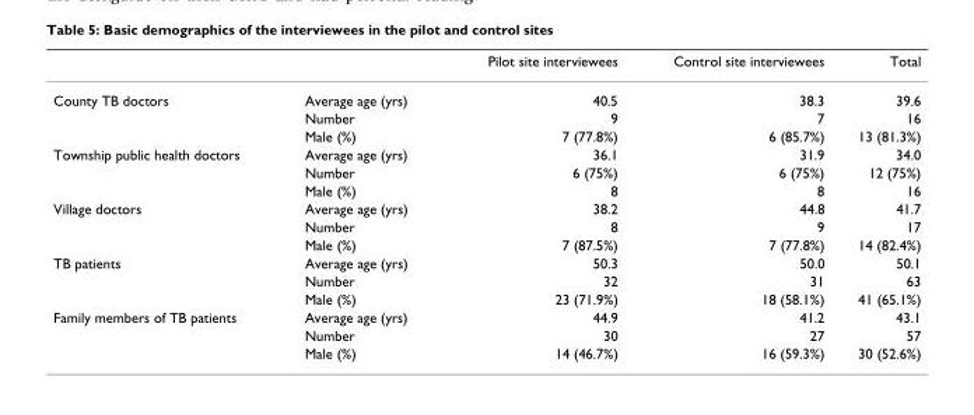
<table><thead><tr><td></td><td></td><td>Pilot site interviewees</td><td>Control site interviewees</td><td>Total</td></tr></thead><tbody><tr><td rowspan="3">County TB doctors</td><td>Average age (yrs)</td><td>40.5</td><td>38.3</td><td>39.6</td></tr><tr><td>Number</td><td>9</td><td>7</td><td>16</td></tr><tr><td>Male (%)</td><td>7 (77.8%)</td><td>6 (85.7%)</td><td>13 (81.3%)</td></tr><tr><td rowspan="3">Township public health doctors</td><td>Average age (yrs)</td><td>36.1</td><td>31.9</td><td>34.0</td></tr><tr><td>Number</td><td>6 (75%)</td><td>6 (75%)</td><td>12 (75%)</td></tr><tr><td>Male (%)</td><td>8</td><td>8</td><td>16</td></tr><tr><td rowspan="3">Village doctors</td><td>Average age (yrs)</td><td>38.2</td><td>44.8</td><td>41.7</td></tr><tr><td>Number</td><td>8</td><td>9</td><td>17</td></tr><tr><td>Male (%)</td><td>7 (87.5%)</td><td>7 (77.8%)</td><td>14 (82.4%)</td></tr><tr><td rowspan="3">TB patients</td><td>Average age (yrs)</td><td>50.3</td><td>50.0</td><td>50.1</td></tr><tr><td>Number</td><td>32</td><td>31</td><td>63</td></tr><tr><td>Male (%)</td><td>23 (71.9%)</td><td>18 (58.1%)</td><td>41 (65.1%)</td></tr><tr><td rowspan="3">Family members of TB patients</td><td>Average age (yrs)</td><td>44.9</td><td>41.2</td><td>43.1</td></tr><tr><td>Number</td><td>30</td><td>27</td><td>57</td></tr><tr><td>Male (%)</td><td>14 (46.7%)</td><td>16 (59.3%)</td><td>30 (52.6%)</td></tr></tbody></table>